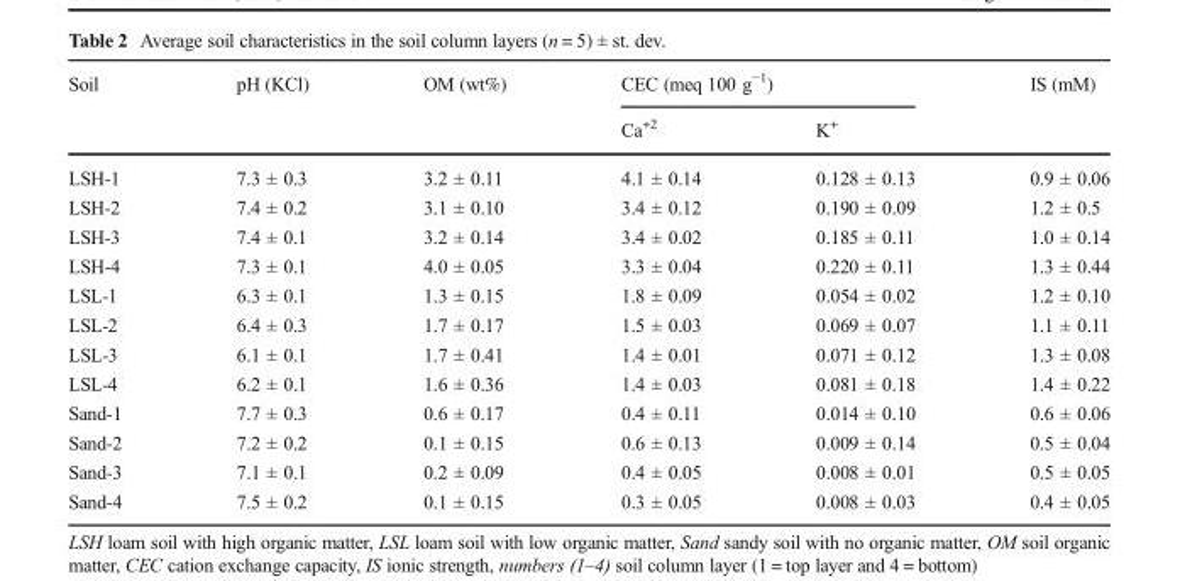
<table><thead><tr><td rowspan="2">Soil</td><td rowspan="2">pH (KCl)</td><td rowspan="2">OM (wt%)</td><td colspan="2">CEC (meq 100 g<sup>−1</sup>)</td><td rowspan="2">IS (mM)</td></tr><tr><td>Ca<sup>+2</sup></td><td>K<sup>+</sup></td></tr></thead><tbody><tr><td>LSH-1</td><td>7.3 ± 0.3</td><td>3.2 ± 0.11</td><td>4.1 ± 0.14</td><td>0.128 ± 0.13</td><td>0.9 ± 0.06</td></tr><tr><td>LSH-2</td><td>7.4 ± 0.2</td><td>3.1 ± 0.10</td><td>3.4 ± 0.12</td><td>0.190 ± 0.09</td><td>1.2 ± 0.5</td></tr><tr><td>LSH-3</td><td>7.4 ± 0.1</td><td>3.2 ± 0.14</td><td>3.4 ± 0.02</td><td>0.185 ± 0.11</td><td>1.0 ± 0.14</td></tr><tr><td>LSH-4</td><td>7.3 ± 0.1</td><td>4.0 ± 0.05</td><td>3.3 ± 0.04</td><td>0.220 ± 0.11</td><td>1.3 ± 0.44</td></tr><tr><td>LSL-1</td><td>6.3 ± 0.1</td><td>1.3 ± 0.15</td><td>1.8 ± 0.09</td><td>0.054 ± 0.02</td><td>1.2 ± 0.10</td></tr><tr><td>LSL-2</td><td>6.4 ± 0.3</td><td>1.7 ± 0.17</td><td>1.5 ± 0.03</td><td>0.069 ± 0.07</td><td>1.1 ± 0.11</td></tr><tr><td>LSL-3</td><td>6.1 ± 0.1</td><td>1.7 ± 0.41</td><td>1.4 ± 0.01</td><td>0.071 ± 0.12</td><td>1.3 ± 0.08</td></tr><tr><td>LSL-4</td><td>6.2 ± 0.1</td><td>1.6 ± 0.36</td><td>1.4 ± 0.03</td><td>0.081 ± 0.18</td><td>1.4 ± 0.22</td></tr><tr><td>Sand-1</td><td>7.7 ± 0.3</td><td>0.6 ± 0.17</td><td>0.4 ± 0.11</td><td>0.014 ± 0.10</td><td>0.6 ± 0.06</td></tr><tr><td>Sand-2</td><td>7.2 ± 0.2</td><td>0.1 ± 0.15</td><td>0.6 ± 0.13</td><td>0.009 ± 0.14</td><td>0.5 ± 0.04</td></tr><tr><td>Sand-3</td><td>7.1 ± 0.1</td><td>0.2 ± 0.09</td><td>0.4 ± 0.05</td><td>0.008 ± 0.01</td><td>0.5 ± 0.05</td></tr><tr><td>Sand-4</td><td>7.5 ± 0.2</td><td>0.1 ± 0.15</td><td>0.3 ± 0.05</td><td>0.008 ± 0.03</td><td>0.4 ± 0.05</td></tr></tbody></table>